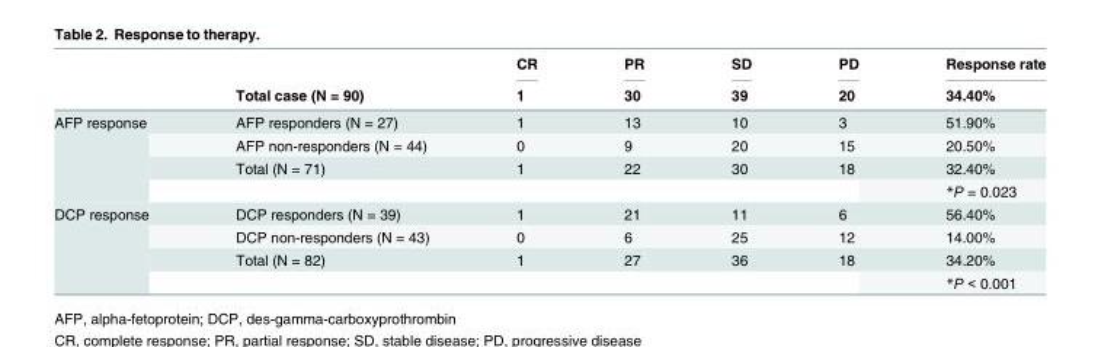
<table><thead><tr><td rowspan="2"></td><td rowspan="2">Total case (N = 90)</td><td rowspan="2">CR 1</td><td rowspan="2">PR 30</td><td rowspan="2">SD 39</td><td rowspan="2">PD 20</td><td rowspan="2">Response rate 34.40%</td></tr><tr></tr></thead><tbody><tr><td rowspan="4">AFP response</td><td>AFP responders (N = 27)</td><td>1</td><td>13</td><td>10</td><td>3</td><td>51.90%</td></tr><tr><td>AFP non-responders (N = 44)</td><td>0</td><td>9</td><td>20</td><td>15</td><td>20.50%</td></tr><tr><td>Total (N = 71)</td><td>1</td><td>22</td><td>30</td><td>18</td><td>32.40%</td></tr><tr><td></td><td></td><td></td><td></td><td></td><td>*P = 0.023</td></tr><tr><td rowspan="4">DCP response</td><td>DCP responders (N = 39)</td><td>1</td><td>21</td><td>11</td><td>6</td><td>56.40%</td></tr><tr><td>DCP non-responders (N = 43)</td><td>0</td><td>6</td><td>25</td><td>12</td><td>14.00%</td></tr><tr><td>Total (N = 82)</td><td>1</td><td>27</td><td>36</td><td>18</td><td>34.20%</td></tr><tr><td></td><td></td><td></td><td></td><td></td><td>*P &lt; 0.001</td></tr></tbody></table>